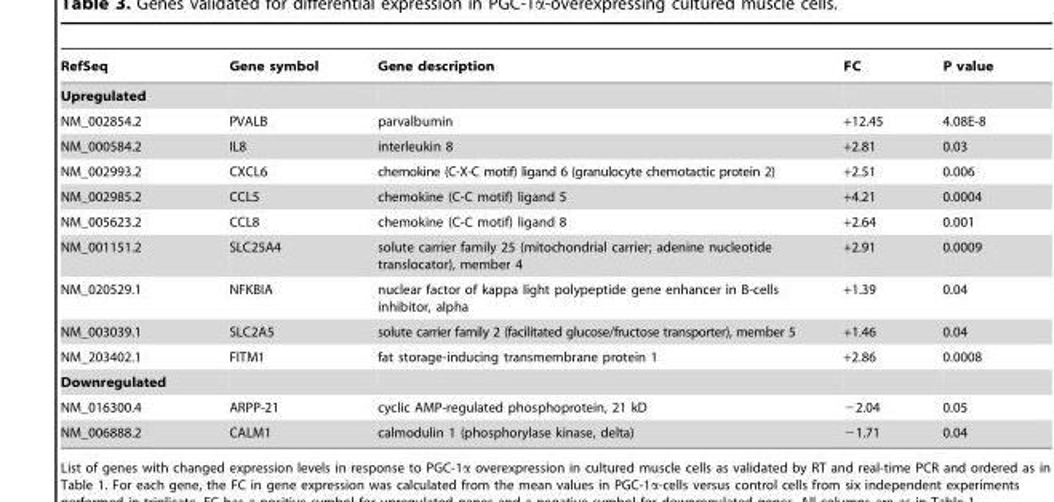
<table><thead><tr><td>RefSeq</td><td>Gene symbol</td><td>Gene description</td><td>FC</td><td>P value</td></tr></thead><tbody><tr><td colspan="5">Upregulated</td></tr><tr><td>NM_002854.2</td><td>PVALB</td><td>parvalbumin</td><td>+12.45</td><td>4.08E-8</td></tr><tr><td>NM_000584.2</td><td>IL8</td><td>interleukin 8</td><td>+2.81</td><td>0.03</td></tr><tr><td>NM_002993.2</td><td>CXCL6</td><td>chemokine (C-X-C motif) ligand 6 (granulocyte chemotactic protein 2)</td><td>+2.51</td><td>0.006</td></tr><tr><td>NM_002985.2</td><td>CCL5</td><td>chemokine (C-C motif) ligand 5</td><td>+4.21</td><td>0.0004</td></tr><tr><td>NM_005623.2</td><td>CCL8</td><td>chemokine (C-C motif) ligand 8</td><td>+2.64</td><td>0.001</td></tr><tr><td>NM_001151.2</td><td>SLC25A4</td><td>solute carrier family 25 (mitochondrial carrier; adenine nucleotide translocator), member 4</td><td>+2.91</td><td>0.0009</td></tr><tr><td>NM_020529.1</td><td>NFKBIA</td><td>nuclear factor of kappa light polypeptide gene enhancer in B-cells inhibitor, alpha</td><td>+1.39</td><td>0.04</td></tr><tr><td>NM_003039.1</td><td>SLC2A5</td><td>solute carrier family 2 (facilitated glucose/fructose transporter), member 5</td><td>+1.46</td><td>0.04</td></tr><tr><td>NM_203402.1</td><td>FITM1</td><td>fat storage-inducing transmembrane protein 1</td><td>+2.86</td><td>0.0008</td></tr><tr><td colspan="5">Downregulated</td></tr><tr><td>NM_016300.4</td><td>ARPP-21</td><td>cyclic AMP-regulated phosphoprotein, 21 kD</td><td>−2.04</td><td>0.05</td></tr><tr><td>NM_006888.2</td><td>CALM1</td><td>calmodulin 1 (phosphorylase kinase, delta)</td><td>−1.71</td><td>0.04</td></tr></tbody></table>